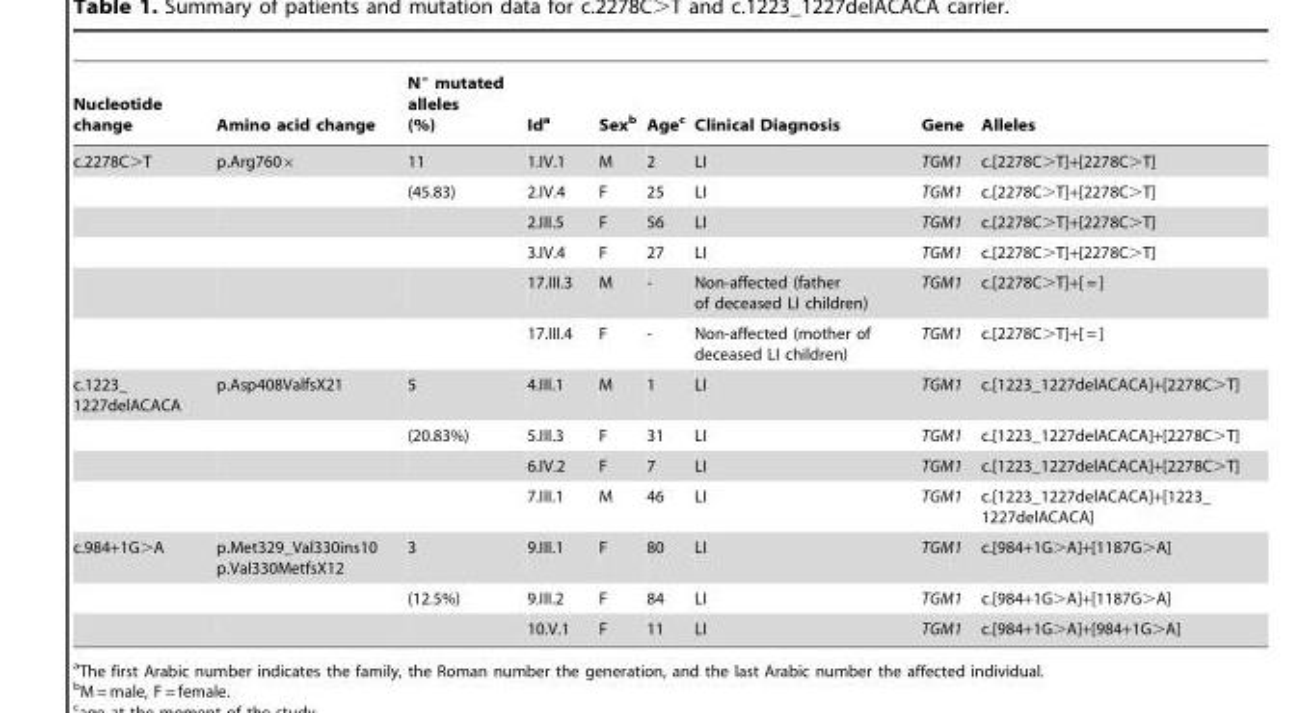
<table><thead><tr><td>Nucleotide change</td><td>Amino acid change</td><td>N° mutated alleles (%)</td><td>Id<sup>a</sup></td><td>Sex<sup>b</sup></td><td>Age<sup>c</sup></td><td>Clinical Diagnosis</td><td>Gene</td><td>Alleles</td></tr></thead><tbody><tr><td rowspan="6">c.2278C&gt;T</td><td>p.Arg760×</td><td>11</td><td>1.IV.1</td><td>M</td><td>2</td><td>LI</td><td>TGM1</td><td>c.[2278C&gt;T]+[2278C&gt;T]</td></tr><tr><td></td><td>(45.83)</td><td>2.IV.4</td><td>F</td><td>25</td><td>LI</td><td>TGM1</td><td>c.[2278C&gt;T]+[2278C&gt;T]</td></tr><tr><td></td><td></td><td>2.III.5</td><td>F</td><td>56</td><td>LI</td><td>TGM1</td><td>c.[2278C&gt;T]+[2278C&gt;T]</td></tr><tr><td></td><td></td><td>3.IV.4</td><td>F</td><td>27</td><td>LI</td><td>TGM1</td><td>c.[2278C&gt;T]+[2278C&gt;T]</td></tr><tr><td></td><td></td><td>17.III.3</td><td>M</td><td>-</td><td>Non-affected (father of deceased LI children)</td><td>TGM1</td><td>c.[2278C&gt;T]+[ = ]</td></tr><tr><td></td><td></td><td>17.III.4</td><td>F</td><td>-</td><td>Non-affected (mother of deceased LI children)</td><td>TGM1</td><td>c.[2278C&gt;T]+[ = ]</td></tr><tr><td rowspan="4">c.1223_ 1227delACACA</td><td>p.Asp408ValfsX21</td><td>5</td><td>4.III.1</td><td>M</td><td>1</td><td>LI</td><td>TGM1</td><td>c.[1223_1227delACACA]+[2278C&gt;T]</td></tr><tr><td></td><td>(20.83%)</td><td>5.III.3</td><td>F</td><td>31</td><td>LI</td><td>TGM1</td><td>c.[1223_1227delACACA]+[2278C&gt;T]</td></tr><tr><td></td><td></td><td>6.IV.2</td><td>F</td><td>7</td><td>LI</td><td>TGM1</td><td>c.[1223_1227delACACA]+[2278C&gt;T]</td></tr><tr><td></td><td></td><td>7.III.1</td><td>M</td><td>46</td><td>LI</td><td>TGM1</td><td>c.[1223_1227delACACA]+[1223_ 1227delACACA]</td></tr><tr><td rowspan="3">c.984+1G&gt;A</td><td>p.Met329_Val330ins10 p.Val330MetfsX12</td><td>3</td><td>9.III.1</td><td>F</td><td>80</td><td>LI</td><td>TGM1</td><td>c.[984+1G&gt;A]+[1187G&gt;A]</td></tr><tr><td></td><td>(12.5%)</td><td>9.III.2</td><td>F</td><td>84</td><td>LI</td><td>TGM1</td><td>c.[984+1G&gt;A]+[1187G&gt;A]</td></tr><tr><td></td><td></td><td>10.V.1</td><td>F</td><td>11</td><td>LI</td><td>TGM1</td><td>c.[984+1G&gt;A]+[984+1G&gt;A]</td></tr></tbody></table>